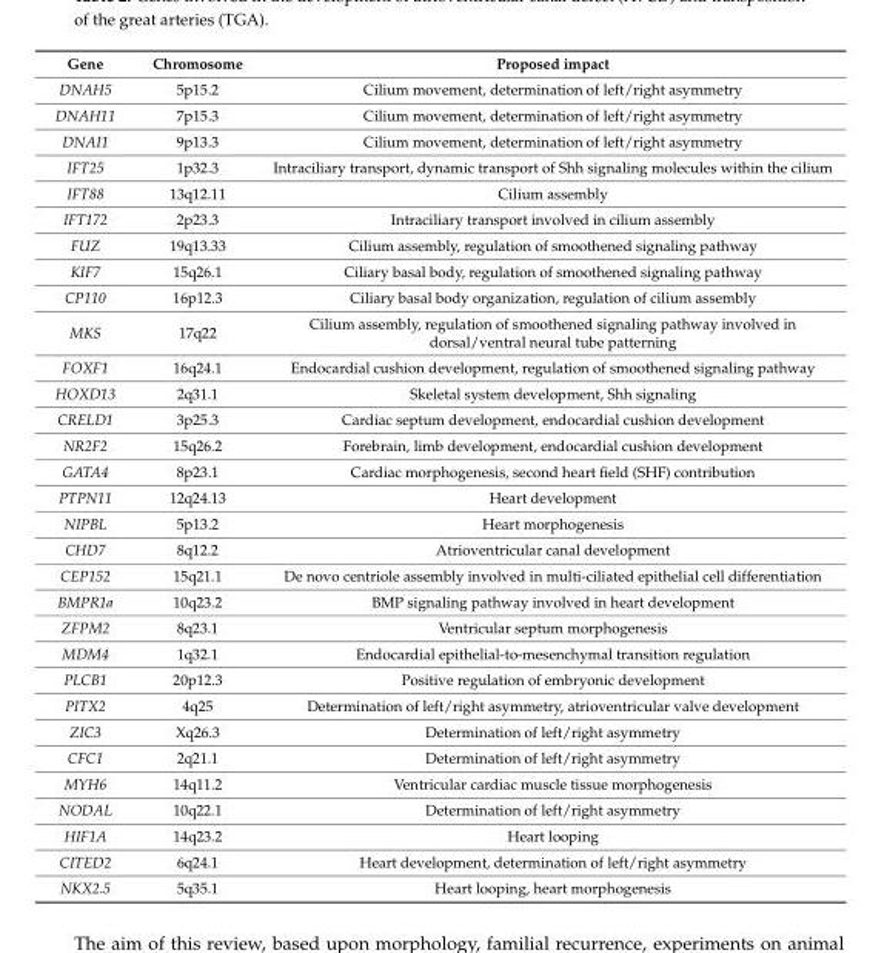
<table><thead><tr><td>Gene</td><td>Chromosome</td><td>Proposed impact</td></tr></thead><tbody><tr><td>DNAH5</td><td>5p15.2</td><td>Cilium movement, determination of left/right asymmetry</td></tr><tr><td>DNAH11</td><td>7p15.3</td><td>Cilium movement, determination of left/right asymmetry</td></tr><tr><td>DNAI1</td><td>9p13.3</td><td>Cilium movement, determination of left/right asymmetry</td></tr><tr><td>IFT25</td><td>1p32.3</td><td>Intraciliary transport, dynamic transport of Shh signaling molecules within the cilium</td></tr><tr><td>IFT88</td><td>13q12.11</td><td>Cilium assembly</td></tr><tr><td>IFT172</td><td>2p23.3</td><td>Intraciliary transport involved in cilium assembly</td></tr><tr><td>FUZ</td><td>19q13.33</td><td>Cilium assembly, regulation of smoothened signaling pathway</td></tr><tr><td>KIF7</td><td>15q26.1</td><td>Ciliary basal body, regulation of smoothened signaling pathway</td></tr><tr><td>CP110</td><td>16p12.3</td><td>Ciliary basal body organization, regulation of cilium assembly</td></tr><tr><td>MKS</td><td>17q22</td><td>Cilium assembly, regulation of smoothened signaling pathway involved in dorsal/ventral neural tube patterning</td></tr><tr><td>FOXF1</td><td>16q24.1</td><td>Endocardial cushion development, regulation of smoothened signaling pathway</td></tr><tr><td>HOXD13</td><td>2q31.1</td><td>Skeletal system development, Shh signaling</td></tr><tr><td>CRELD1</td><td>3p25.3</td><td>Cardiac septum development, endocardial cushion development</td></tr><tr><td>NR2F2</td><td>15q26.2</td><td>Forebrain, limb development, endocardial cushion development</td></tr><tr><td>GATA4</td><td>8p23.1</td><td>Cardiac morphogenesis, second heart field (SHF) contribution</td></tr><tr><td>PTPN11</td><td>12q24.13</td><td>Heart development</td></tr><tr><td>NIPBL</td><td>5p13.2</td><td>Heart morphogenesis</td></tr><tr><td>CHD7</td><td>8q12.2</td><td>Atrioventricular canal development</td></tr><tr><td>CEP152</td><td>15q21.1</td><td>De novo centriole assembly involved in multi-ciliated epithelial cell differentiation</td></tr><tr><td>BMPR1a</td><td>10q23.2</td><td>BMP signaling pathway involved in heart development</td></tr><tr><td>ZFPM2</td><td>8q23.1</td><td>Ventricular septum morphogenesis</td></tr><tr><td>MDM4</td><td>1q32.1</td><td>Endocardial epithelial-to-mesenchymal transition regulation</td></tr><tr><td>PLCB1</td><td>20p12.3</td><td>Positive regulation of embryonic development</td></tr><tr><td>PITX2</td><td>4q25</td><td>Determination of left/right asymmetry, atrioventricular valve development</td></tr><tr><td>ZIC3</td><td>Xq26.3</td><td>Determination of left/right asymmetry</td></tr><tr><td>CFC1</td><td>2q21.1</td><td>Determination of left/right asymmetry</td></tr><tr><td>MYH6</td><td>14q11.2</td><td>Ventricular cardiac muscle tissue morphogenesis</td></tr><tr><td>NODAL</td><td>10q22.1</td><td>Determination of left/right asymmetry</td></tr><tr><td>HIF1A</td><td>14q23.2</td><td>Heart looping</td></tr><tr><td>CITED2</td><td>6q24.1</td><td>Heart development, determination of left/right asymmetry</td></tr><tr><td>NKX2.5</td><td>5q35.1</td><td>Heart looping, heart morphogenesis</td></tr></tbody></table>